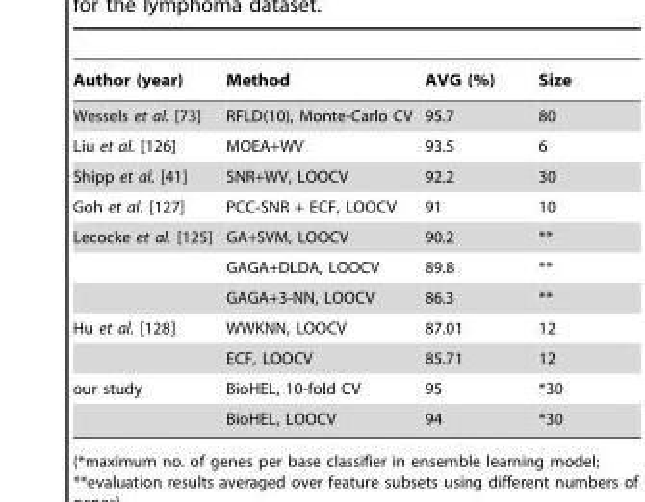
<table><thead><tr><td>Author (year)</td><td>Method</td><td>AVG (%)</td><td>Size</td></tr></thead><tbody><tr><td>Wessels et al. [73]</td><td>RFLD(10), Monte-Carlo CV</td><td>95.7</td><td>80</td></tr><tr><td>Liu et al. [126]</td><td>MOEA+WV</td><td>93.5</td><td>6</td></tr><tr><td>Shipp et al. [41]</td><td>SNR+WV, LOOCV</td><td>92.2</td><td>30</td></tr><tr><td>Goh et al. [127]</td><td>PCC-SNR + ECF, LOOCV</td><td>91</td><td>10</td></tr><tr><td rowspan="3">Lecocke et al. [125]</td><td>GA+SVM, LOOCV</td><td>90.2</td><td>**</td></tr><tr><td>GAGA+DLDA, LOOCV</td><td>89.8</td><td>**</td></tr><tr><td>GAGA+3-NN, LOOCV</td><td>86.3</td><td>**</td></tr><tr><td rowspan="2">Hu et al. [128]</td><td>WWKNN, LOOCV</td><td>87.01</td><td>12</td></tr><tr><td>ECF, LOOCV</td><td>85.71</td><td>12</td></tr><tr><td rowspan="2">our study</td><td>BioHEL, 10-fold CV</td><td>95</td><td>*30</td></tr><tr><td>BioHEL, LOOCV</td><td>94</td><td>*30</td></tr></tbody></table>